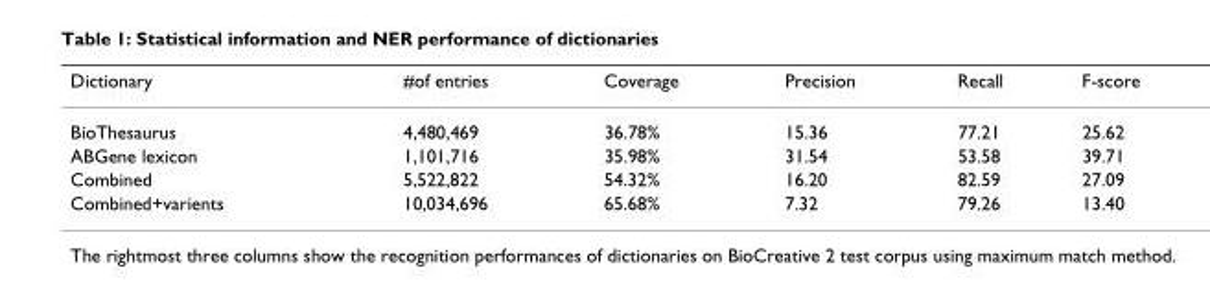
<table><thead><tr><td>Dictionary</td><td>#of entries</td><td>Coverage</td><td>Precision</td><td>Recall</td><td>F-score</td></tr></thead><tbody><tr><td>BioThesaurus</td><td>4,480,469</td><td>36.78%</td><td>15.36</td><td>77.21</td><td>25.62</td></tr><tr><td>ABGene lexicon</td><td>1,101,716</td><td>35.98%</td><td>31.54</td><td>53.58</td><td>39.71</td></tr><tr><td>Combined</td><td>5,522,822</td><td>54.32%</td><td>16.20</td><td>82.59</td><td>27.09</td></tr><tr><td>Combined+varients</td><td>10,034,696</td><td>65.68%</td><td>7.32</td><td>79.26</td><td>13.40</td></tr></tbody></table>